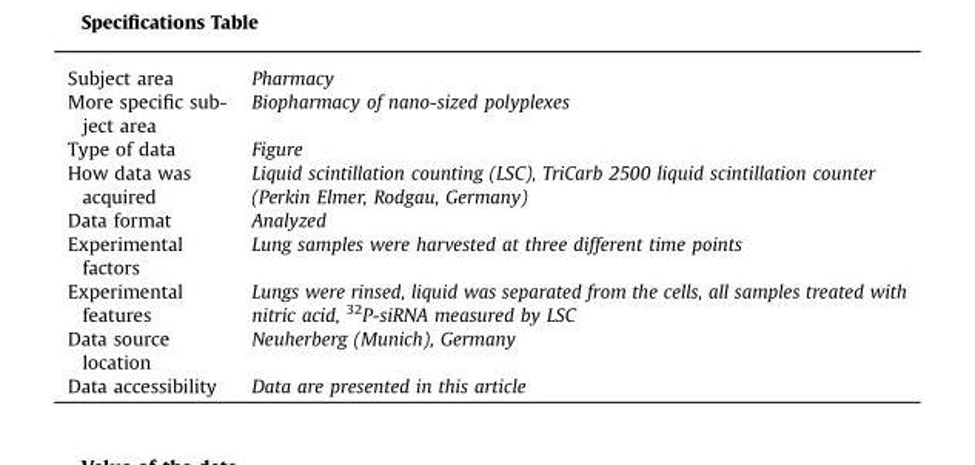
<table><tbody><tr><td>Subject area</td><td>Pharmacy</td></tr><tr><td>More specific sub- ject area</td><td>Biopharmacy of nano-sized polyplexes</td></tr><tr><td>Type of data</td><td>Figure</td></tr><tr><td>How data was acquired</td><td>Liquid scintillation counting (LSC), TriCarb 2500 liquid scintillation counter (Perkin Elmer, Rodgau, Germany)</td></tr><tr><td>Data format</td><td>Analyzed</td></tr><tr><td>Experimental factors</td><td>Lung samples were harvested at three different time points</td></tr><tr><td>Experimental features</td><td>Lungs were rinsed, liquid was separated from the cells, all samples treated with nitric acid, <sup>32</sup>P-siRNA measured by LSC</td></tr><tr><td>Data source location</td><td>Neuherberg (Munich), Germany</td></tr><tr><td>Data accessibility</td><td>Data are presented in this article</td></tr></tbody></table>